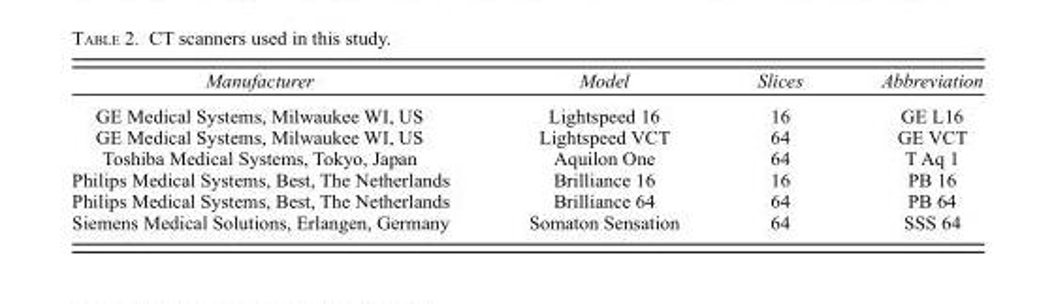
<table><thead><tr><td>Manufacturer</td><td>Model</td><td>Slices</td><td>Abbreviation</td></tr></thead><tbody><tr><td>GE Medical Systems, Milwaukee WI, US</td><td>Lightspeed 16</td><td>16</td><td>GE L16</td></tr><tr><td>GE Medical Systems, Milwaukee WI, US</td><td>Lightspeed VCT</td><td>64</td><td>GE VCT</td></tr><tr><td>Toshiba Medical Systems, Tokyo, Japan</td><td>Aquilon One</td><td>64</td><td>T Aq 1</td></tr><tr><td>Philips Medical Systems, Best, The Netherlands</td><td>Brilliance 16</td><td>16</td><td>PB 16</td></tr><tr><td>Philips Medical Systems, Best, The Netherlands</td><td>Brilliance 64</td><td>64</td><td>PB 64</td></tr><tr><td>Siemens Medical Solutions, Erlangen, Germany</td><td>Somaton Sensation</td><td>64</td><td>SSS 64</td></tr></tbody></table>